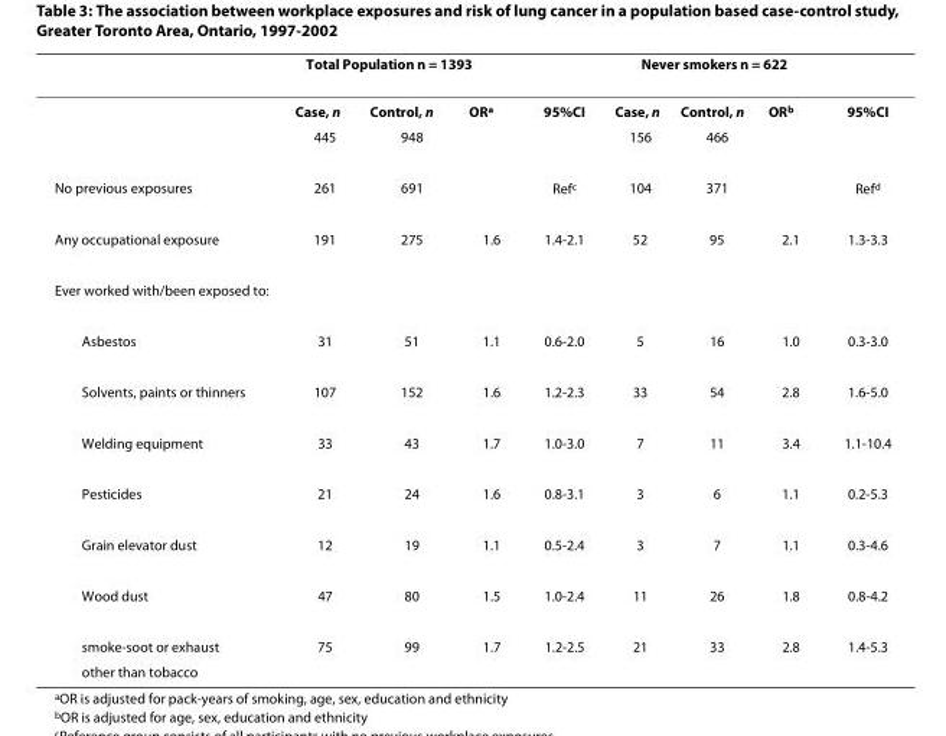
<table><thead><tr><td rowspan="2"></td><td colspan="3">Total Population n = 1393</td><td rowspan="2">95%CI</td><td colspan="3">Never smokers n = 622</td><td rowspan="2">95%CI</td></tr><tr><td>Case, n</td><td>Control, n</td><td>OR<sup>a</sup></td><td>Case, n</td><td>Control, n</td><td>OR<sup>b</sup></td></tr></thead><tbody><tr><td></td><td>445</td><td>948</td><td></td><td></td><td>156</td><td>466</td><td></td><td></td></tr><tr><td>No previous exposures</td><td>261</td><td>691</td><td></td><td>Ref<sup>c</sup></td><td>104</td><td>371</td><td></td><td>Ref<sup>d</sup></td></tr><tr><td>Any occupational exposure</td><td>191</td><td>275</td><td>1.6</td><td>1.4-2.1</td><td>52</td><td>95</td><td>2.1</td><td>1.3-3.3</td></tr><tr><td colspan="9">Ever worked with/been exposed to:</td></tr><tr><td>Asbestos</td><td>31</td><td>51</td><td>1.1</td><td>0.6-2.0</td><td>5</td><td>16</td><td>1.0</td><td>0.3-3.0</td></tr><tr><td>Solvents, paints or thinners</td><td>107</td><td>152</td><td>1.6</td><td>1.2-2.3</td><td>33</td><td>54</td><td>2.8</td><td>1.6-5.0</td></tr><tr><td>Welding equipment</td><td>33</td><td>43</td><td>1.7</td><td>1.0-3.0</td><td>7</td><td>11</td><td>3.4</td><td>1.1-10.4</td></tr><tr><td>Pesticides</td><td>21</td><td>24</td><td>1.6</td><td>0.8-3.1</td><td>3</td><td>6</td><td>1.1</td><td>0.2-5.3</td></tr><tr><td>Grain elevator dust</td><td>12</td><td>19</td><td>1.1</td><td>0.5-2.4</td><td>3</td><td>7</td><td>1.1</td><td>0.3-4.6</td></tr><tr><td>Wood dust</td><td>47</td><td>80</td><td>1.5</td><td>1.0-2.4</td><td>11</td><td>26</td><td>1.8</td><td>0.8-4.2</td></tr><tr><td>smoke-soot or exhaust</td><td>75</td><td>99</td><td>1.7</td><td>1.2-2.5</td><td>21</td><td>33</td><td>2.8</td><td>1.4-5.3</td></tr><tr><td>other than tobacco</td><td></td><td></td><td></td><td></td><td></td><td></td><td></td><td></td></tr></tbody></table>